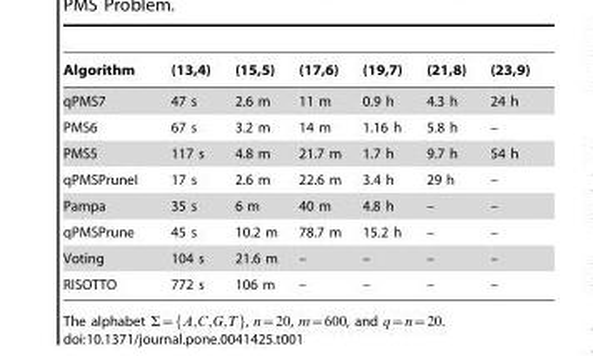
<table><thead><tr><td>Algorithm</td><td>(13,4)</td><td>(15,5)</td><td>(17,6)</td><td>(19,7)</td><td>(21,8)</td><td>(23,9)</td></tr></thead><tbody><tr><td>qPMS7</td><td>47 s</td><td>2.6 m</td><td>11 m</td><td>0.9 h</td><td>4.3 h</td><td>24 h</td></tr><tr><td>PMS6</td><td>67 s</td><td>3.2 m</td><td>14 m</td><td>1.16 h</td><td>5.8 h</td><td>–</td></tr><tr><td>PMS5</td><td>117 s</td><td>4.8 m</td><td>21.7 m</td><td>1.7 h</td><td>9.7 h</td><td>54 h</td></tr><tr><td>qPMSPruneI</td><td>17 s</td><td>2.6 m</td><td>22.6 m</td><td>3.4 h</td><td>29 h</td><td>–</td></tr><tr><td>Pampa</td><td>35 s</td><td>6 m</td><td>40 m</td><td>4.8 h</td><td>–</td><td>–</td></tr><tr><td>qPMSPrune</td><td>45 s</td><td>10.2 m</td><td>78.7 m</td><td>15.2 h</td><td>–</td><td>–</td></tr><tr><td>Voting</td><td>104 s</td><td>21.6 m</td><td>–</td><td>–</td><td>–</td><td>–</td></tr><tr><td>RISOTTO</td><td>772 s</td><td>106 m</td><td>–</td><td>–</td><td>–</td><td>–</td></tr></tbody></table>